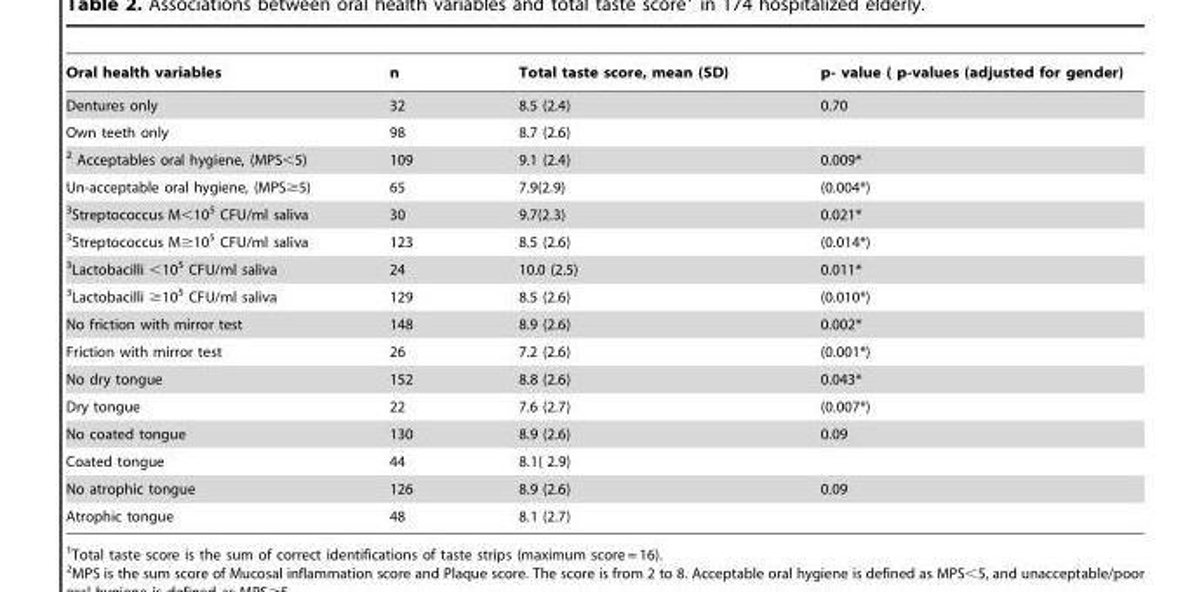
<table><thead><tr><td>Oral health variables</td><td>n</td><td>Total taste score, mean (SD)</td><td>p- value ( p-values (adjusted for gender)</td></tr></thead><tbody><tr><td>Dentures only</td><td>32</td><td>8.5 (2.4)</td><td>0.70</td></tr><tr><td>Own teeth only</td><td>98</td><td>8.7 (2.6)</td><td></td></tr><tr><td>2 Acceptables oral hygiene, (MPS&lt;5)</td><td>109</td><td>9.1 (2.4)</td><td>0.009*</td></tr><tr><td>Un-acceptable oral hygiene, (MPS≥5)</td><td>65</td><td>7.9(2.9)</td><td>(0.004*)</td></tr><tr><td>3Streptococcus M&lt;10<sup>5</sup> CFU/ml saliva</td><td>30</td><td>9.7(2.3)</td><td>0.021*</td></tr><tr><td>3Streptococcus M≥10<sup>5</sup> CFU/ml saliva</td><td>123</td><td>8.5 (2.6)</td><td>(0.014*)</td></tr><tr><td>3Lactobacilli &lt;10<sup>5</sup> CFU/ml saliva</td><td>24</td><td>10.0 (2.5)</td><td>0.011*</td></tr><tr><td>3Lactobacilli ≥10<sup>5</sup> CFU/ml saliva</td><td>129</td><td>8.5 (2.6)</td><td>(0.010*)</td></tr><tr><td>No friction with mirror test</td><td>148</td><td>8.9 (2.6)</td><td>0.002*</td></tr><tr><td>Friction with mirror test</td><td>26</td><td>7.2 (2.6)</td><td>(0.001*)</td></tr><tr><td>No dry tongue</td><td>152</td><td>8.8 (2.6)</td><td>0.043*</td></tr><tr><td>Dry tongue</td><td>22</td><td>7.6 (2.7)</td><td>(0.007*)</td></tr><tr><td>No coated tongue</td><td>130</td><td>8.9 (2.6)</td><td>0.09</td></tr><tr><td>Coated tongue</td><td>44</td><td>8.1( 2.9)</td><td></td></tr><tr><td>No atrophic tongue</td><td>126</td><td>8.9 (2.6)</td><td>0.09</td></tr><tr><td>Atrophic tongue</td><td>48</td><td>8.1 (2.7)</td><td></td></tr></tbody></table>